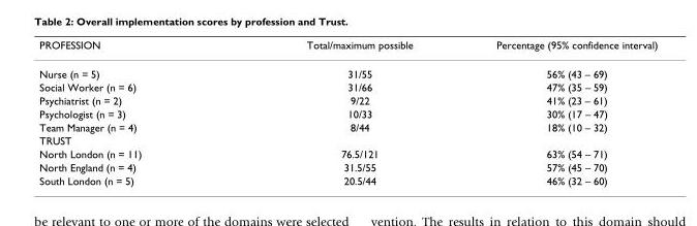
<table><thead><tr><td>PROFESSION</td><td>Total/maximum possible</td><td>Percentage (95% confidence interval)</td></tr></thead><tbody><tr><td>Nurse (n = 5)</td><td>31/55</td><td>56% (43 – 69)</td></tr><tr><td>Social Worker (n = 6)</td><td>31/66</td><td>47% (35 – 59)</td></tr><tr><td>Psychiatrist (n = 2)</td><td>9/22</td><td>41% (23 – 61)</td></tr><tr><td>Psychologist (n = 3)</td><td>10/33</td><td>30% (17 – 47)</td></tr><tr><td>Team Manager (n = 4)</td><td>8/44</td><td>18% (10 – 32)</td></tr><tr><td colspan="3">TRUST</td></tr><tr><td>North London (n = 11)</td><td>76.5/121</td><td>63% (54 – 71)</td></tr><tr><td>North England (n = 4)</td><td>31.5/55</td><td>57% (45 – 70)</td></tr><tr><td>South London (n = 5)</td><td>20.5/44</td><td>46% (32 – 60)</td></tr></tbody></table>